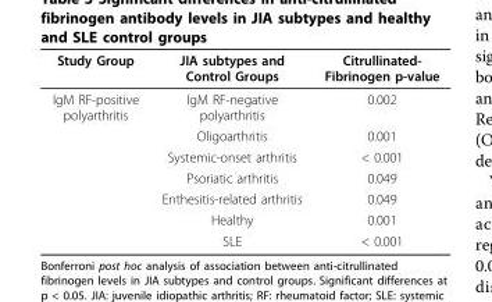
<table><thead><tr><td>Study Group</td><td>JIA subtypes and Control Groups</td><td>Citrullinated- Fibrinogen p-value</td></tr></thead><tbody><tr><td rowspan="7">IgM RF-positive polyarthritis</td><td>IgM RF-negative polyarthritis</td><td>0.002</td></tr><tr><td>Oligoarthritis</td><td>0.001</td></tr><tr><td>Systemic-onset arthritis</td><td>&lt; 0.001</td></tr><tr><td>Psoriatic arthritis</td><td>0.049</td></tr><tr><td>Enthesitis-related arthritis</td><td>0.049</td></tr><tr><td>Healthy</td><td>0.001</td></tr><tr><td>SLE</td><td>&lt; 0.001</td></tr></tbody></table>